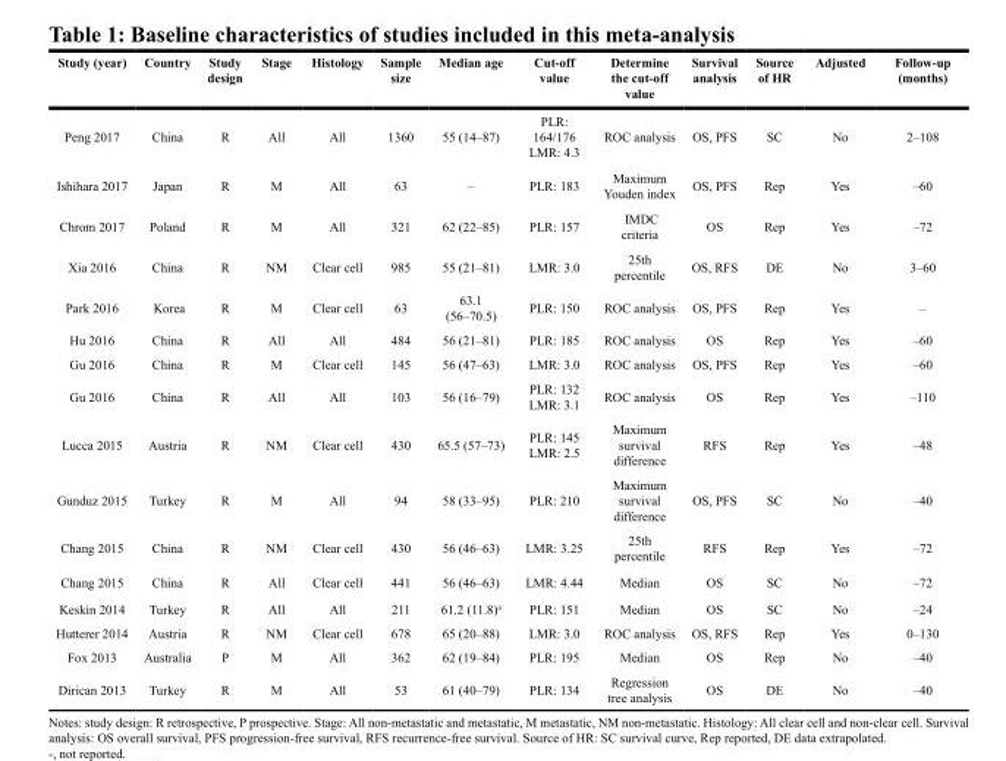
<table><thead><tr><td>Study (year)</td><td>Country</td><td>Study design</td><td>Stage</td><td>Histology</td><td>Sample size</td><td>Median age</td><td>Cut-off value</td><td>Determine the cut-off value</td><td>Survival analysis</td><td>Source of HR</td><td>Adjusted</td><td>Follow-up (months)</td></tr></thead><tbody><tr><td>Peng 2017</td><td>China</td><td>R</td><td>All</td><td>All</td><td>1360</td><td>55 (14–87)</td><td>PLR: 164/176 LMR: 4.3</td><td>ROC analysis</td><td>OS, PFS</td><td>SC</td><td>No</td><td>2–108</td></tr><tr><td>Ishihara 2017</td><td>Japan</td><td>R</td><td>M</td><td>All</td><td>63</td><td>–</td><td>PLR: 183</td><td>Maximum Youden index</td><td>OS, PFS</td><td>Rep</td><td>Yes</td><td>–60</td></tr><tr><td>Chrom 2017</td><td>Poland</td><td>R</td><td>M</td><td>All</td><td>321</td><td>62 (22–85)</td><td>PLR: 157</td><td>IMDC criteria</td><td>OS</td><td>Rep</td><td>Yes</td><td>–72</td></tr><tr><td>Xia 2016</td><td>China</td><td>R</td><td>NM</td><td>Clear cell</td><td>985</td><td>55 (21–81)</td><td>LMR: 3.0</td><td>25th percentile</td><td>OS, RFS</td><td>DE</td><td>No</td><td>3–60</td></tr><tr><td>Park 2016</td><td>Korea</td><td>R</td><td>M</td><td>Clear cell</td><td>63</td><td>63.1 (56–70.5)</td><td>PLR: 150</td><td>ROC analysis</td><td>OS, PFS</td><td>Rep</td><td>Yes</td><td>–</td></tr><tr><td>Hu 2016</td><td>China</td><td>R</td><td>All</td><td>All</td><td>484</td><td>56 (21–81)</td><td>PLR: 185</td><td>ROC analysis</td><td>OS</td><td>Rep</td><td>Yes</td><td>–60</td></tr><tr><td>Gu 2016</td><td>China</td><td>R</td><td>M</td><td>Clear cell</td><td>145</td><td>56 (47–63)</td><td>LMR: 3.0</td><td>ROC analysis</td><td>OS, PFS</td><td>Rep</td><td>Yes</td><td>–60</td></tr><tr><td>Gu 2016</td><td>China</td><td>R</td><td>All</td><td>All</td><td>103</td><td>56 (16–79)</td><td>PLR: 132 LMR: 3.1</td><td>ROC analysis</td><td>OS</td><td>Rep</td><td>Yes</td><td>–110</td></tr><tr><td>Lucca 2015</td><td>Austria</td><td>R</td><td>NM</td><td>Clear cell</td><td>430</td><td>65.5 (57–73)</td><td>PLR: 145 LMR: 2.5</td><td>Maximum survival difference</td><td>RFS</td><td>Rep</td><td>Yes</td><td>–48</td></tr><tr><td>Gunduz 2015</td><td>Turkey</td><td>R</td><td>M</td><td>All</td><td>94</td><td>58 (33–95)</td><td>PLR: 210</td><td>Maximum survival difference</td><td>OS, PFS</td><td>SC</td><td>No</td><td>–40</td></tr><tr><td>Chang 2015</td><td>China</td><td>R</td><td>NM</td><td>Clear cell</td><td>430</td><td>56 (46–63)</td><td>LMR: 3.25</td><td>25th percentile</td><td>RFS</td><td>Rep</td><td>Yes</td><td>–72</td></tr><tr><td>Chang 2015</td><td>China</td><td>R</td><td>All</td><td>Clear cell</td><td>441</td><td>56 (46–63)</td><td>LMR: 4.44</td><td>Median</td><td>OS</td><td>SC</td><td>No</td><td>–72</td></tr><tr><td>Keskin 2014</td><td>Turkey</td><td>R</td><td>All</td><td>All</td><td>211</td><td>61.2 (11.8)<sup>a</sup></td><td>PLR: 151</td><td>Median</td><td>OS</td><td>SC</td><td>No</td><td>–24</td></tr><tr><td>Hutterer 2014</td><td>Austria</td><td>R</td><td>NM</td><td>Clear cell</td><td>678</td><td>65 (20–88)</td><td>LMR: 3.0</td><td>ROC analysis</td><td>OS, RFS</td><td>Rep</td><td>Yes</td><td>0–130</td></tr><tr><td>Fox 2013</td><td>Australia</td><td>P</td><td>M</td><td>All</td><td>362</td><td>62 (19–84)</td><td>PLR: 195</td><td>Median</td><td>OS</td><td>Rep</td><td>No</td><td>–40</td></tr><tr><td>Dirican 2013</td><td>Turkey</td><td>R</td><td>M</td><td>All</td><td>53</td><td>61 (40–79)</td><td>PLR: 134</td><td>Regression tree analysis</td><td>OS</td><td>DE</td><td>No</td><td>–40</td></tr></tbody></table>